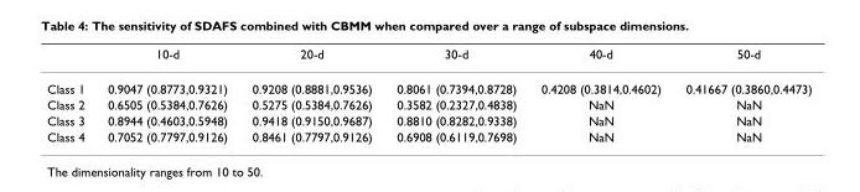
<table><thead><tr><td></td><td>10-d</td><td>20-d</td><td>30-d</td><td>40-d</td><td>50-d</td></tr></thead><tbody><tr><td>Class 1</td><td>0.9047 (0.8773,0.9321)</td><td>0.9208 (0.8881,0.9536)</td><td>0.8061 (0.7394,0.8728)</td><td>0.4208 (0.3814,0.4602)</td><td>0.41667 (0.3860,0.4473)</td></tr><tr><td>Class 2</td><td>0.6505 (0.5384,0.7626)</td><td>0.5275 (0.5384,0.7626)</td><td>0.3582 (0.2327,0.4838)</td><td>NaN</td><td>NaN</td></tr><tr><td>Class 3</td><td>0.8944 (0.4603,0.5948)</td><td>0.9418 (0.9150,0.9687)</td><td>0.8810 (0.8282,0.9338)</td><td>NaN</td><td>NaN</td></tr><tr><td>Class 4</td><td>0.7052 (0.7797,0.9126)</td><td>0.8461 (0.7797,0.9126)</td><td>0.6908 (0.6119,0.7698)</td><td>NaN</td><td>NaN</td></tr></tbody></table>